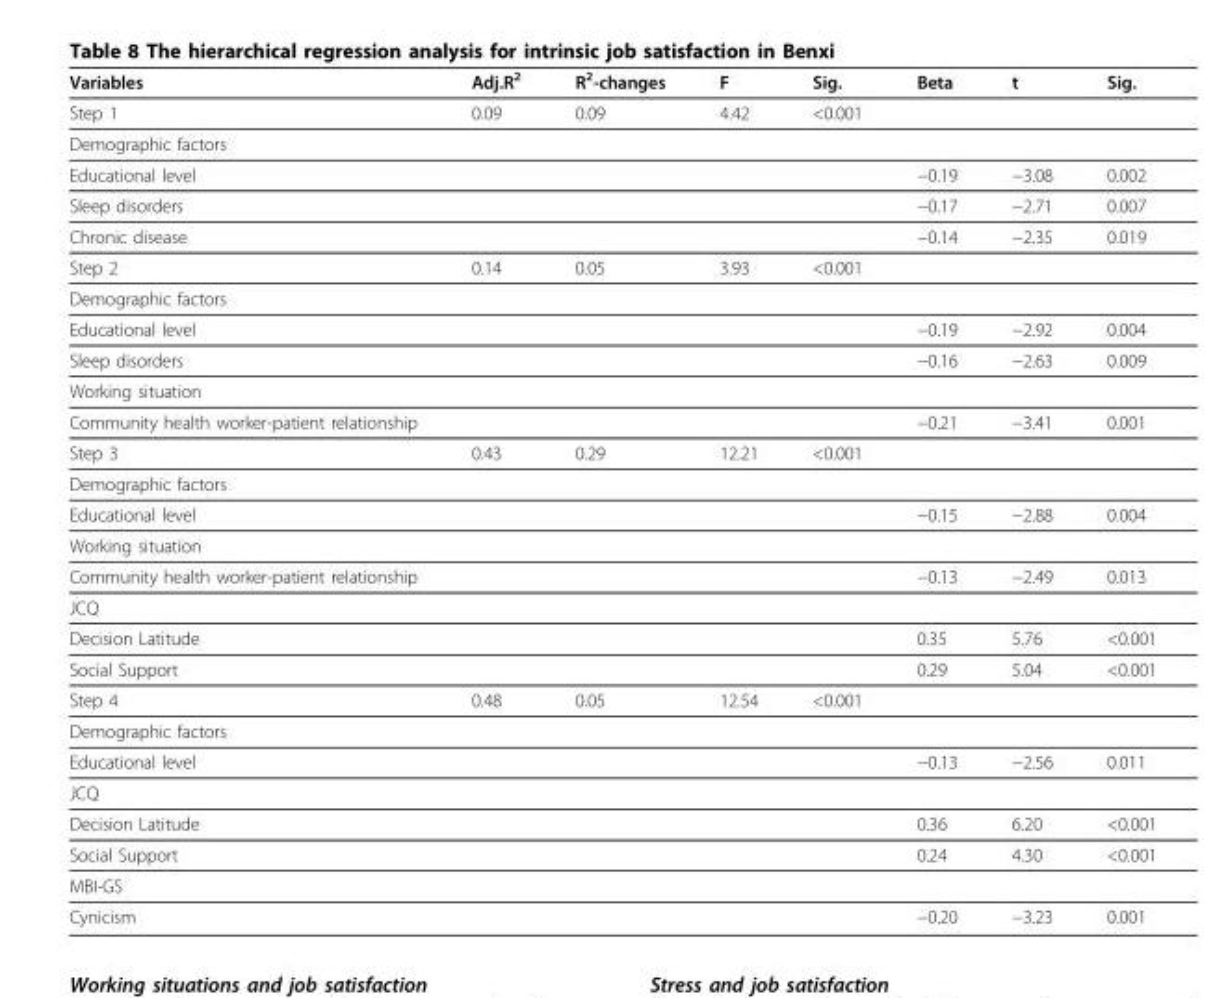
<table><thead><tr><td>Variables</td><td>Adj.R<sup>2</sup></td><td>R<sup>2</sup>-changes</td><td>F</td><td>Sig.</td><td>Beta</td><td>t</td><td>Sig.</td></tr></thead><tbody><tr><td>Step 1</td><td>0.09</td><td>0.09</td><td>4.42</td><td>&lt;0.001</td><td></td><td></td><td></td></tr><tr><td colspan="8">Demographic factors</td></tr><tr><td>Educational level</td><td></td><td></td><td></td><td></td><td>−0.19</td><td>−3.08</td><td>0.002</td></tr><tr><td>Sleep disorders</td><td></td><td></td><td></td><td></td><td>−0.17</td><td>−2.71</td><td>0.007</td></tr><tr><td>Chronic disease</td><td></td><td></td><td></td><td></td><td>−0.14</td><td>−2.35</td><td>0.019</td></tr><tr><td>Step 2</td><td>0.14</td><td>0.05</td><td>3.93</td><td>&lt;0.001</td><td></td><td></td><td></td></tr><tr><td colspan="8">Demographic factors</td></tr><tr><td>Educational level</td><td></td><td></td><td></td><td></td><td>−0.19</td><td>−2.92</td><td>0.004</td></tr><tr><td>Sleep disorders</td><td></td><td></td><td></td><td></td><td>−0.16</td><td>−2.63</td><td>0.009</td></tr><tr><td colspan="8">Working situation</td></tr><tr><td>Community health worker-patient relationship</td><td></td><td></td><td></td><td></td><td>−0.21</td><td>−3.41</td><td>0.001</td></tr><tr><td>Step 3</td><td>0.43</td><td>0.29</td><td>12.21</td><td>&lt;0.001</td><td></td><td></td><td></td></tr><tr><td colspan="8">Demographic factors</td></tr><tr><td>Educational level</td><td></td><td></td><td></td><td></td><td>−0.15</td><td>−2.88</td><td>0.004</td></tr><tr><td colspan="8">Working situation</td></tr><tr><td>Community health worker-patient relationship</td><td></td><td></td><td></td><td></td><td>−0.13</td><td>−2.49</td><td>0.013</td></tr><tr><td colspan="8">JCQ</td></tr><tr><td>Decision Latitude</td><td></td><td></td><td></td><td></td><td>0.35</td><td>5.76</td><td>&lt;0.001</td></tr><tr><td>Social Support</td><td></td><td></td><td></td><td></td><td>0.29</td><td>5.04</td><td>&lt;0.001</td></tr><tr><td>Step 4</td><td>0.48</td><td>0.05</td><td>12.54</td><td>&lt;0.001</td><td></td><td></td><td></td></tr><tr><td colspan="8">Demographic factors</td></tr><tr><td>Educational level</td><td></td><td></td><td></td><td></td><td>−0.13</td><td>−2.56</td><td>0.011</td></tr><tr><td colspan="8">JCQ</td></tr><tr><td>Decision Latitude</td><td></td><td></td><td></td><td></td><td>0.36</td><td>6.20</td><td>&lt;0.001</td></tr><tr><td>Social Support</td><td></td><td></td><td></td><td></td><td>0.24</td><td>4.30</td><td>&lt;0.001</td></tr><tr><td colspan="8">MBI-GS</td></tr><tr><td>Cynicism</td><td></td><td></td><td></td><td></td><td>−0.20</td><td>−3.23</td><td>0.001</td></tr></tbody></table>